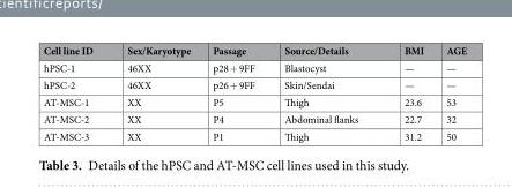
<table><thead><tr><td>Cell line ID</td><td>Sex/Karyotype</td><td>Passage</td><td>Source/Details</td><td>BMI</td><td>AGE</td></tr></thead><tbody><tr><td>hPSC-1</td><td>46XX</td><td>p28 + 9FF</td><td>Blastocyst</td><td>—</td><td>—</td></tr><tr><td>hPSC-2</td><td>46XX</td><td>p26 + 9FF</td><td>Skin/Sendai</td><td>—</td><td>—</td></tr><tr><td>AT-MSC-1</td><td>XX</td><td>P5</td><td>Thigh</td><td>23.6</td><td>53</td></tr><tr><td>AT-MSC-2</td><td>XX</td><td>P4</td><td>Abdominal flanks</td><td>22.7</td><td>32</td></tr><tr><td>AT-MSC-3</td><td>XX</td><td>P1</td><td>Thigh</td><td>31.2</td><td>50</td></tr></tbody></table>